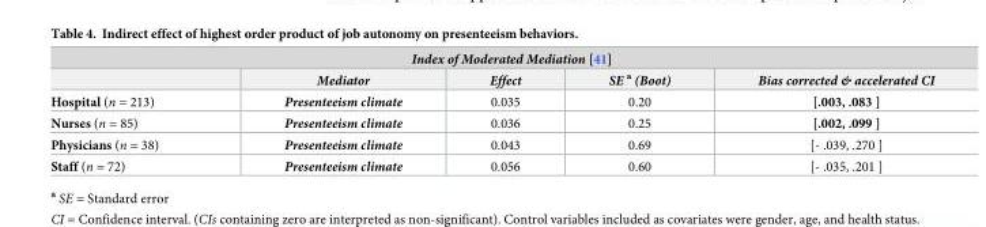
<table><thead><tr><td colspan="5">Index of Moderated Mediation [41]</td></tr><tr><td></td><td>Mediator</td><td>Effect</td><td>SE <sup>a</sup> (Boot)</td><td>Bias corrected &amp; accelerated CI</td></tr></thead><tbody><tr><td>Hospital (n = 213)</td><td>Presenteeism climate</td><td>0.035</td><td>0.20</td><td>[.003, .083 ]</td></tr><tr><td>Nurses (n = 85)</td><td>Presenteeism climate</td><td>0.036</td><td>0.25</td><td>[.002, .099 ]</td></tr><tr><td>Physicians (n = 38)</td><td>Presenteeism climate</td><td>0.043</td><td>0.69</td><td>[- .039, .270 ]</td></tr><tr><td>Staff (n = 72)</td><td>Presenteeism climate</td><td>0.056</td><td>0.60</td><td>[- .035, .201 ]</td></tr></tbody></table>